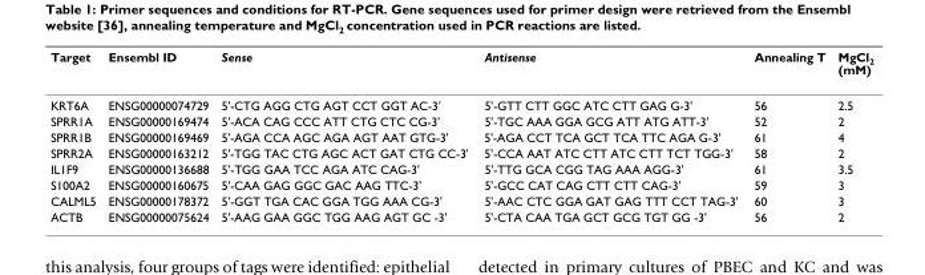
<table><thead><tr><td>Target</td><td>Ensembl ID</td><td>Sense</td><td>Antisense</td><td>Annealing T</td><td>MgCl2 (mM)</td></tr></thead><tbody><tr><td>KRT6A</td><td>ENSG00000074729</td><td>5&#x27;-CTG AGG CTG AGT CCT GGT AC-3&#x27;</td><td>5&#x27;-GTT CTT GGC ATC CTT GAG G-3&#x27;</td><td>56</td><td>2.5</td></tr><tr><td>SPRR1A</td><td>ENSG00000169474</td><td>5&#x27;-ACA CAG CCC ATT CTG CTC CG-3&#x27;</td><td>5&#x27;-TGC AAA GGA GCG ATT ATG ATT-3&#x27;</td><td>52</td><td>2</td></tr><tr><td>SPRR1B</td><td>ENSG00000169469</td><td>5&#x27;-AGA CCA AGC AGA AGT AAT GTG-3&#x27;</td><td>5&#x27;-AGA CCT TCA GCT TCA TTC AGA G-3&#x27;</td><td>61</td><td>4</td></tr><tr><td>SPRR2A</td><td>ENSG00000163212</td><td>5&#x27;-TGG TAC CTG AGC ACT GAT CTG CC-3&#x27;</td><td>5&#x27;-CCA AAT ATC CTT ATC CTT TCT TGG-3&#x27;</td><td>58</td><td>2</td></tr><tr><td>IL1F9</td><td>ENSG00000136688</td><td>5&#x27;-TGG GAA TCC AGA ATC CAG-3&#x27;</td><td>5&#x27;-TTG GCA CGG TAG AAA AGG-3&#x27;</td><td>61</td><td>3.5</td></tr><tr><td>S100A2</td><td>ENSG00000160675</td><td>5&#x27;-CAA GAG GGC GAC AAG TTC-3&#x27;</td><td>5&#x27;-GCC CAT CAG CTT CTT CAG-3&#x27;</td><td>59</td><td>3</td></tr><tr><td>CALML5</td><td>ENSG00000178372</td><td>5&#x27;-GGT TGA CAC GGA TGG AAA CG-3&#x27;</td><td>5&#x27;-AAC CTC GGA GAT GAG TTT CCT TAG-3&#x27;</td><td>60</td><td>3</td></tr><tr><td>ACTB</td><td>ENSG00000075624</td><td>5&#x27;-AAG GAA GGC TGG AAG AGT GC -3&#x27;</td><td>5&#x27;-CTA CAA TGA GCT GCG TGT GG -3&#x27;</td><td>56</td><td>2</td></tr></tbody></table>